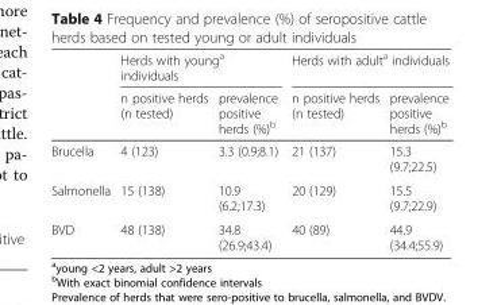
<table><thead><tr><td rowspan="2"></td><td colspan="2">Herds with young<sup>a</sup> individuals</td><td colspan="2">Herds with adult<sup>a</sup> individuals</td></tr><tr><td>n positive herds (n tested)</td><td>prevalence positive herds (%)<sup>b</sup></td><td>n positive herds (n tested)</td><td>prevalence positive herds (%)<sup>b</sup></td></tr></thead><tbody><tr><td>Brucella</td><td>4 (123)</td><td>3.3 (0.9;8.1)</td><td>21 (137)</td><td>15.3 (9.7;22.5)</td></tr><tr><td>Salmonella</td><td>15 (138)</td><td>10.9 (6.2;17.3)</td><td>20 (129)</td><td>15.5 (9.7;22.9)</td></tr><tr><td>BVD</td><td>48 (138)</td><td>34.8 (26.9;43.4)</td><td>40 (89)</td><td>44.9 (34.4;55.9)</td></tr></tbody></table>